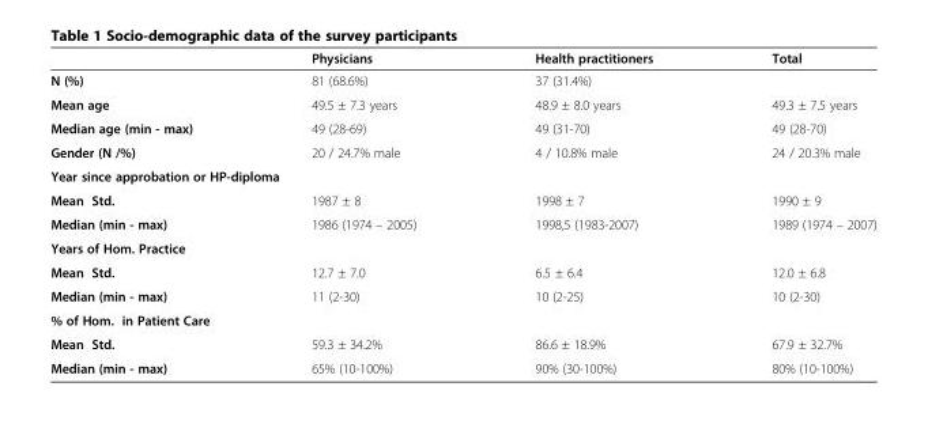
<table><thead><tr><td></td><td>Physicians</td><td>Health practitioners</td><td>Total</td></tr></thead><tbody><tr><td>N (%)</td><td>81 (68.6%)</td><td>37 (31.4%)</td><td></td></tr><tr><td>Mean age</td><td>49.5 ± 7.3 years</td><td>48.9 ± 8.0 years</td><td>49.3 ± 7.5 years</td></tr><tr><td>Median age (min - max)</td><td>49 (28-69)</td><td>49 (31-70)</td><td>49 (28-70)</td></tr><tr><td>Gender (N /%)</td><td>20 / 24.7% male</td><td>4 / 10.8% male</td><td>24 / 20.3% male</td></tr><tr><td colspan="4">Year since approbation or HP-diploma</td></tr><tr><td>Mean Std.</td><td>1987 ± 8</td><td>1998 ± 7</td><td>1990 ± 9</td></tr><tr><td>Median (min - max)</td><td>1986 (1974 – 2005)</td><td>1998,5 (1983-2007)</td><td>1989 (1974 – 2007)</td></tr><tr><td colspan="4">Years of Hom. Practice</td></tr><tr><td>Mean Std.</td><td>12.7 ± 7.0</td><td>6.5 ± 6.4</td><td>12.0 ± 6.8</td></tr><tr><td>Median (min - max)</td><td>11 (2-30)</td><td>10 (2-25)</td><td>10 (2-30)</td></tr><tr><td colspan="4">% of Hom. in Patient Care</td></tr><tr><td>Mean Std.</td><td>59.3 ± 34.2%</td><td>86.6 ± 18.9%</td><td>67.9 ± 32.7%</td></tr><tr><td>Median (min - max)</td><td>65% (10-100%)</td><td>90% (30-100%)</td><td>80% (10-100%)</td></tr></tbody></table>